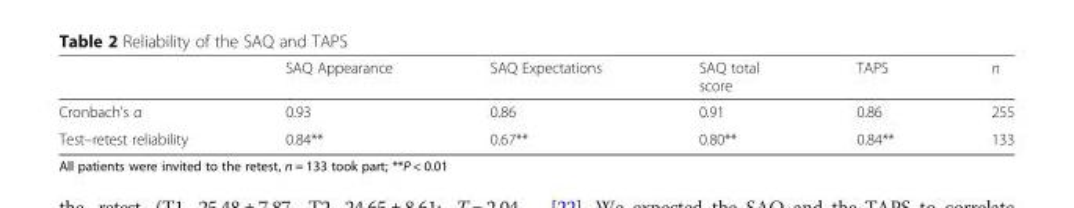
<table><thead><tr><td></td><td>SAQ Appearance</td><td>SAQ Expectations</td><td>SAQ total score</td><td>TAPS</td><td>n</td></tr></thead><tbody><tr><td>Cronbach’s α</td><td>0.93</td><td>0.86</td><td>0.91</td><td>0.86</td><td>255</td></tr><tr><td>Test–retest reliability</td><td>0.84**</td><td>0.67**</td><td>0.80**</td><td>0.84**</td><td>133</td></tr></tbody></table>